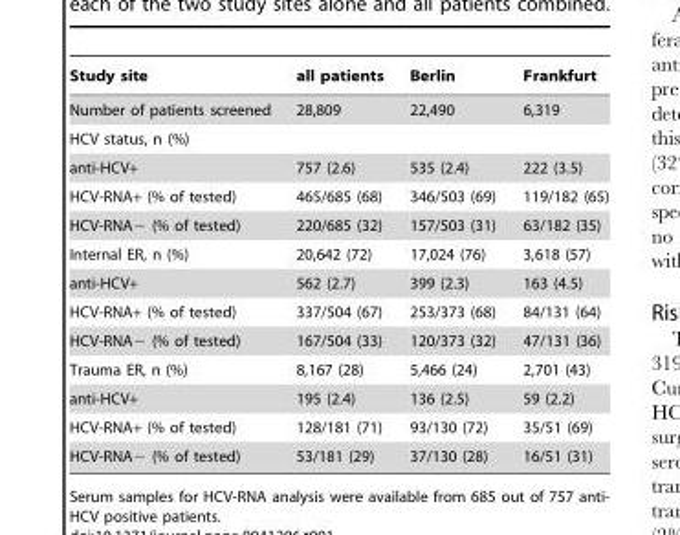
<table><thead><tr><td>Study site</td><td>all patients</td><td>Berlin</td><td>Frankfurt</td></tr></thead><tbody><tr><td>Number of patients screened</td><td>28,809</td><td>22,490</td><td>6,319</td></tr><tr><td colspan="4">HCV status, n (%)</td></tr><tr><td>anti-HCV+</td><td>757 (2.6)</td><td>535 (2.4)</td><td>222 (3.5)</td></tr><tr><td>HCV-RNA+ (% of tested)</td><td>465/685 (68)</td><td>346/503 (69)</td><td>119/182 (65)</td></tr><tr><td>HCV-RNA− (% of tested)</td><td>220/685 (32)</td><td>157/503 (31)</td><td>63/182 (35)</td></tr><tr><td>Internal ER, n (%)</td><td>20,642 (72)</td><td>17,024 (76)</td><td>3,618 (57)</td></tr><tr><td>anti-HCV+</td><td>562 (2.7)</td><td>399 (2.3)</td><td>163 (4.5)</td></tr><tr><td>HCV-RNA+ (% of tested)</td><td>337/504 (67)</td><td>253/373 (68)</td><td>84/131 (64)</td></tr><tr><td>HCV-RNA− (% of tested)</td><td>167/504 (33)</td><td>120/373 (32)</td><td>47/131 (36)</td></tr><tr><td>Trauma ER, n (%)</td><td>8,167 (28)</td><td>5,466 (24)</td><td>2,701 (43)</td></tr><tr><td>anti-HCV+</td><td>195 (2.4)</td><td>136 (2.5)</td><td>59 (2.2)</td></tr><tr><td>HCV-RNA+ (% of tested)</td><td>128/181 (71)</td><td>93/130 (72)</td><td>35/51 (69)</td></tr><tr><td>HCV-RNA− (% of tested)</td><td>53/181 (29)</td><td>37/130 (28)</td><td>16/51 (31)</td></tr></tbody></table>